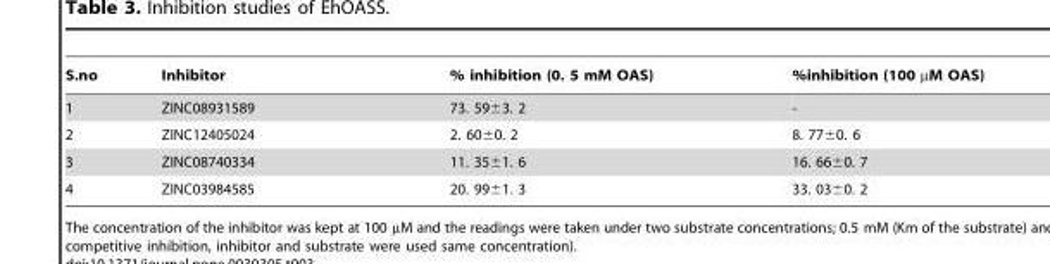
<table><thead><tr><td>S.no</td><td>Inhibitor</td><td>% inhibition (0. 5 mM OAS)</td><td>%inhibition (100 µM OAS)</td></tr></thead><tbody><tr><td>1</td><td>ZINC08931589</td><td>73. 59±3. 2</td><td>-</td></tr><tr><td>2</td><td>ZINC12405024</td><td>2. 60±0. 2</td><td>8. 77±0. 6</td></tr><tr><td>3</td><td>ZINC08740334</td><td>11. 35±1. 6</td><td>16. 66±0. 7</td></tr><tr><td>4</td><td>ZINC03984585</td><td>20. 99±1. 3</td><td>33. 03±0. 2</td></tr></tbody></table>